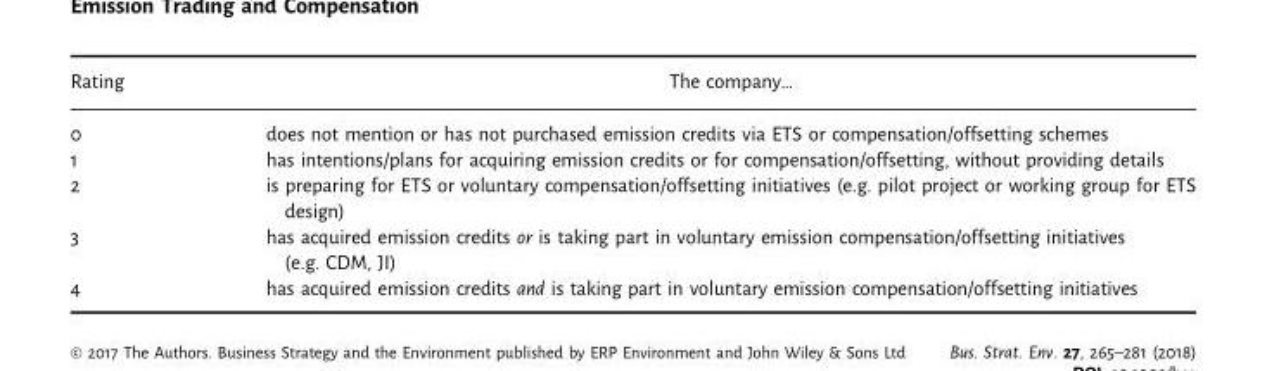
<table><thead><tr><td>Rating</td><td>The company…</td></tr></thead><tbody><tr><td>0</td><td>does not mention or has not purchased emission credits via ETS or compensation/offsetting schemes</td></tr><tr><td>1</td><td>has intentions/plans for acquiring emission credits or for compensation/offsetting, without providing details</td></tr><tr><td>2</td><td>is preparing for ETS or voluntary compensation/offsetting initiatives (e.g. pilot project or working group for ETS design)</td></tr><tr><td>3</td><td>has acquired emission credits or is taking part in voluntary emission compensation/offsetting initiatives (e.g. CDM, JI)</td></tr><tr><td>4</td><td>has acquired emission credits and is taking part in voluntary emission compensation/offsetting initiatives</td></tr></tbody></table>